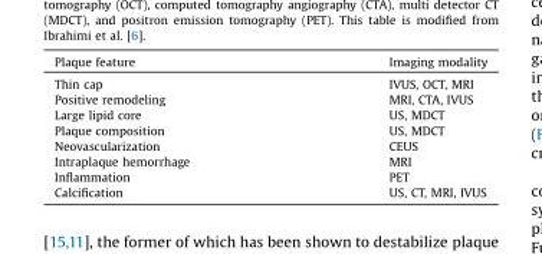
<table><thead><tr><td>Plaque feature</td><td>Imaging modality</td></tr></thead><tbody><tr><td>Thin cap</td><td>IVUS, OCT, MRI</td></tr><tr><td>Positive remodeling</td><td>MRI, CTA, IVUS</td></tr><tr><td>Large lipid core</td><td>US, MDCT</td></tr><tr><td>Plaque composition</td><td>US, MDCT</td></tr><tr><td>Neovascularization</td><td>CEUS</td></tr><tr><td>Intraplaque hemorrhage</td><td>MRI</td></tr><tr><td>Inflammation</td><td>PET</td></tr><tr><td>Calcification</td><td>US, CT, MRI, IVUS</td></tr></tbody></table>